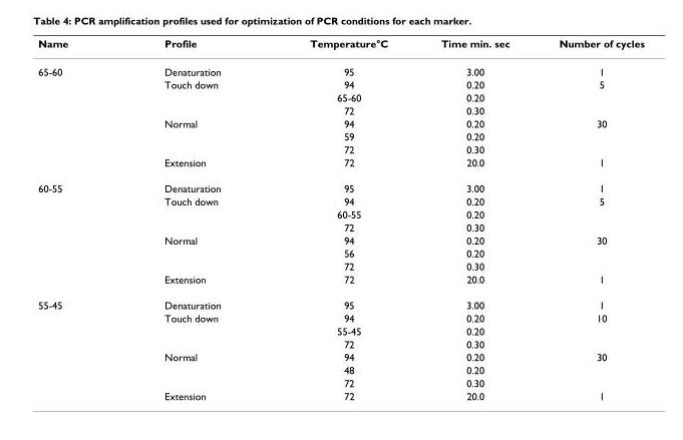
<table><thead><tr><td>Name</td><td>Profile</td><td>Temperature°C</td><td>Time min. sec</td><td>Number of cycles</td></tr></thead><tbody><tr><td rowspan="8">65-60</td><td>Denaturation</td><td>95</td><td>3.00</td><td>1</td></tr><tr><td>Touch down</td><td>94</td><td>0.20</td><td>5</td></tr><tr><td></td><td>65-60</td><td>0.20</td><td></td></tr><tr><td></td><td>72</td><td>0.30</td><td></td></tr><tr><td>Normal</td><td>94</td><td>0.20</td><td>30</td></tr><tr><td></td><td>59</td><td>0.20</td><td></td></tr><tr><td></td><td>72</td><td>0.30</td><td></td></tr><tr><td>Extension</td><td>72</td><td>20.0</td><td>1</td></tr><tr><td rowspan="8">60-55</td><td>Denaturation</td><td>95</td><td>3.00</td><td>1</td></tr><tr><td>Touch down</td><td>94</td><td>0.20</td><td>5</td></tr><tr><td></td><td>60-55</td><td>0.20</td><td></td></tr><tr><td></td><td>72</td><td>0.30</td><td></td></tr><tr><td>Normal</td><td>94</td><td>0.20</td><td>30</td></tr><tr><td></td><td>56</td><td>0.20</td><td></td></tr><tr><td></td><td>72</td><td>0.30</td><td></td></tr><tr><td>Extension</td><td>72</td><td>20.0</td><td>1</td></tr><tr><td rowspan="8">55-45</td><td>Denaturation</td><td>95</td><td>3.00</td><td>1</td></tr><tr><td>Touch down</td><td>94</td><td>0.20</td><td>10</td></tr><tr><td></td><td>55-45</td><td>0.20</td><td></td></tr><tr><td></td><td>72</td><td>0.30</td><td></td></tr><tr><td>Normal</td><td>94</td><td>0.20</td><td>30</td></tr><tr><td></td><td>48</td><td>0.20</td><td></td></tr><tr><td></td><td>72</td><td>0.30</td><td></td></tr><tr><td>Extension</td><td>72</td><td>20.0</td><td>1</td></tr></tbody></table>